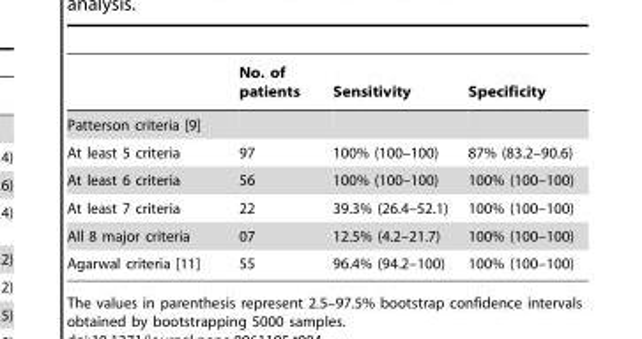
<table><thead><tr><td></td><td>No. of patients</td><td>Sensitivity</td><td>Specificity</td></tr></thead><tbody><tr><td colspan="4">Patterson criteria [9]</td></tr><tr><td>At least 5 criteria</td><td>97</td><td>100% (100–100)</td><td>87% (83.2–90.6)</td></tr><tr><td>At least 6 criteria</td><td>56</td><td>100% (100–100)</td><td>100% (100–100)</td></tr><tr><td>At least 7 criteria</td><td>22</td><td>39.3% (26.4–52.1)</td><td>100% (100–100)</td></tr><tr><td>All 8 major criteria</td><td>07</td><td>12.5% (4.2–21.7)</td><td>100% (100–100)</td></tr><tr><td>Agarwal criteria [11]</td><td>55</td><td>96.4% (94.2–100)</td><td>100% (100–100)</td></tr></tbody></table>